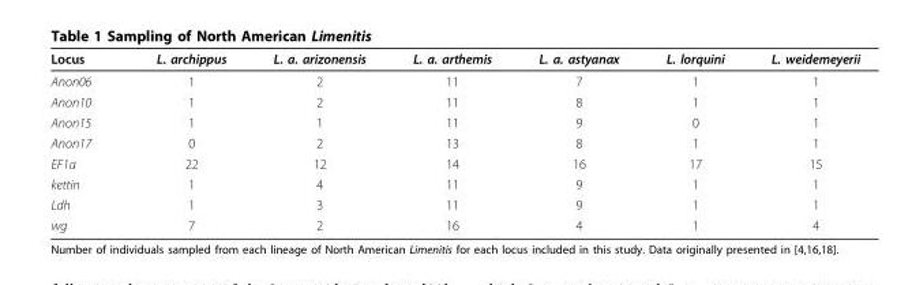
<table><thead><tr><td>Locus</td><td>L. archippus</td><td>L. a. arizonensis</td><td>L. a. arthemis</td><td>L. a. astyanax</td><td>L. lorquini</td><td>L. weidemeyerii</td></tr></thead><tbody><tr><td>Anon06</td><td>1</td><td>2</td><td>11</td><td>7</td><td>1</td><td>1</td></tr><tr><td>Anon10</td><td>1</td><td>2</td><td>11</td><td>8</td><td>1</td><td>1</td></tr><tr><td>Anon15</td><td>1</td><td>1</td><td>11</td><td>9</td><td>0</td><td>1</td></tr><tr><td>Anon17</td><td>0</td><td>2</td><td>13</td><td>8</td><td>1</td><td>1</td></tr><tr><td>EF1a</td><td>22</td><td>12</td><td>14</td><td>16</td><td>17</td><td>15</td></tr><tr><td>kettin</td><td>1</td><td>4</td><td>11</td><td>9</td><td>1</td><td>1</td></tr><tr><td>Ldh</td><td>1</td><td>3</td><td>11</td><td>9</td><td>1</td><td>1</td></tr><tr><td>wg</td><td>7</td><td>2</td><td>16</td><td>4</td><td>1</td><td>4</td></tr></tbody></table>